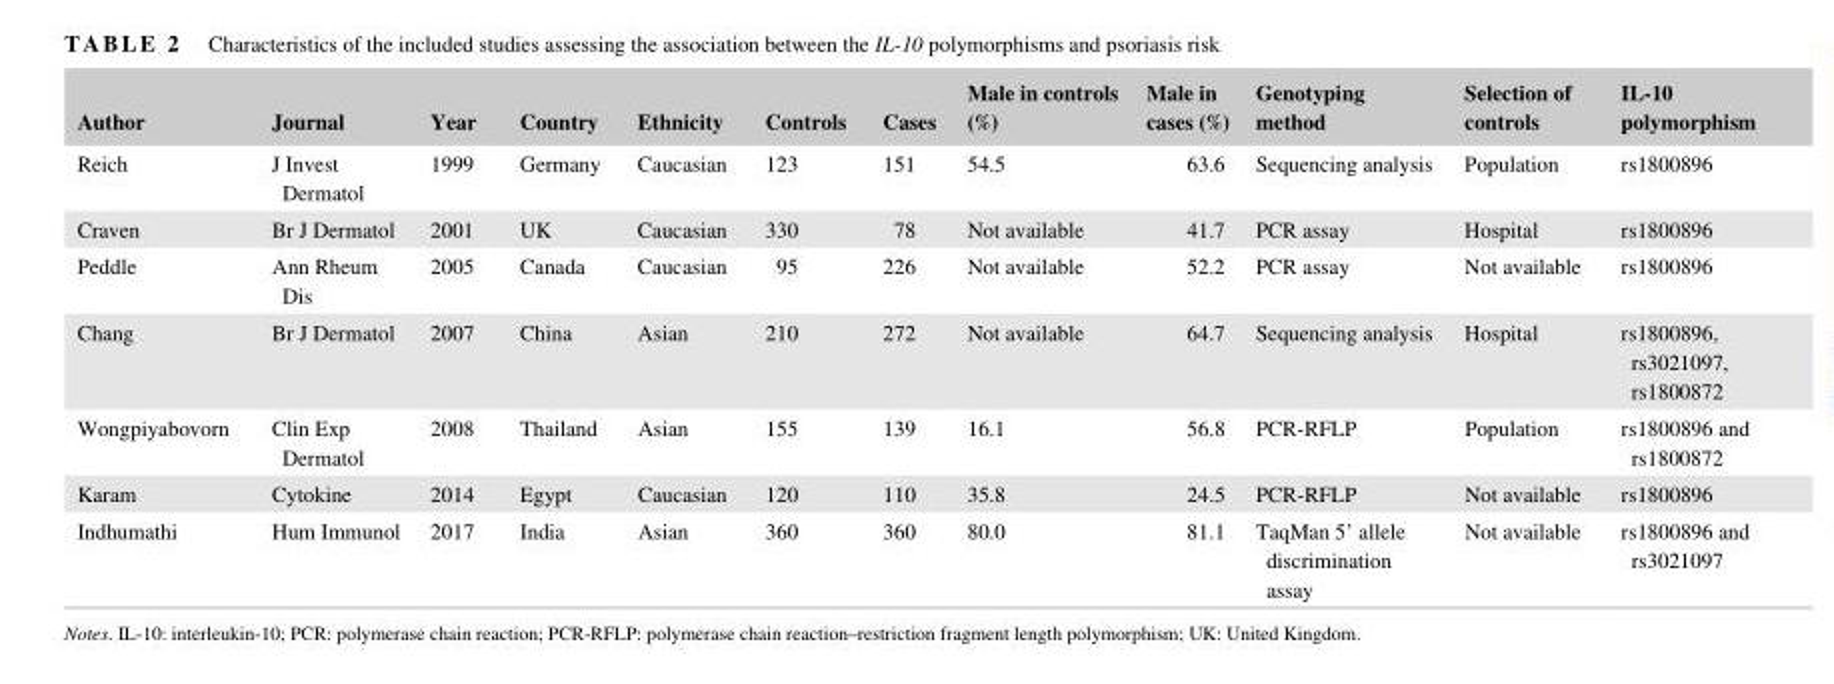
<table><thead><tr><td>Author</td><td>Journal</td><td>Year</td><td>Country</td><td>Ethnicity</td><td>Controls</td><td>Cases</td><td>Male in controls (%)</td><td>Male in cases (%)</td><td>Genotyping method</td><td>Selection of controls</td><td>IL‐10 polymorphism</td></tr></thead><tbody><tr><td>Reich</td><td>J Invest Dermatol</td><td>1999</td><td>Germany</td><td>Caucasian</td><td>123</td><td>151</td><td>54.5</td><td>63.6</td><td>Sequencing analysis</td><td>Population</td><td>rs1800896</td></tr><tr><td>Craven</td><td>Br J Dermatol</td><td>2001</td><td>UK</td><td>Caucasian</td><td>330</td><td>78</td><td>Not available</td><td>41.7</td><td>PCR assay</td><td>Hospital</td><td>rs1800896</td></tr><tr><td>Peddle</td><td>Ann Rheum Dis</td><td>2005</td><td>Canada</td><td>Caucasian</td><td>95</td><td>226</td><td>Not available</td><td>52.2</td><td>PCR assay</td><td>Not available</td><td>rs1800896</td></tr><tr><td>Chang</td><td>Br J Dermatol</td><td>2007</td><td>China</td><td>Asian</td><td>210</td><td>272</td><td>Not available</td><td>64.7</td><td>Sequencing analysis</td><td>Hospital</td><td>rs1800896, rs3021097, rs1800872</td></tr><tr><td>Wongpiyabovorn</td><td>Clin Exp Dermatol</td><td>2008</td><td>Thailand</td><td>Asian</td><td>155</td><td>139</td><td>16.1</td><td>56.8</td><td>PCR‐RFLP</td><td>Population</td><td>rs1800896 and rs1800872</td></tr><tr><td>Karam</td><td>Cytokine</td><td>2014</td><td>Egypt</td><td>Caucasian</td><td>120</td><td>110</td><td>35.8</td><td>24.5</td><td>PCR‐RFLP</td><td>Not available</td><td>rs1800896</td></tr><tr><td>Indhumathi</td><td>Hum Immunol</td><td>2017</td><td>India</td><td>Asian</td><td>360</td><td>360</td><td>80.0</td><td>81.1</td><td>TaqMan 5’ allele discrimination assay</td><td>Not available</td><td>rs1800896 and rs3021097</td></tr></tbody></table>